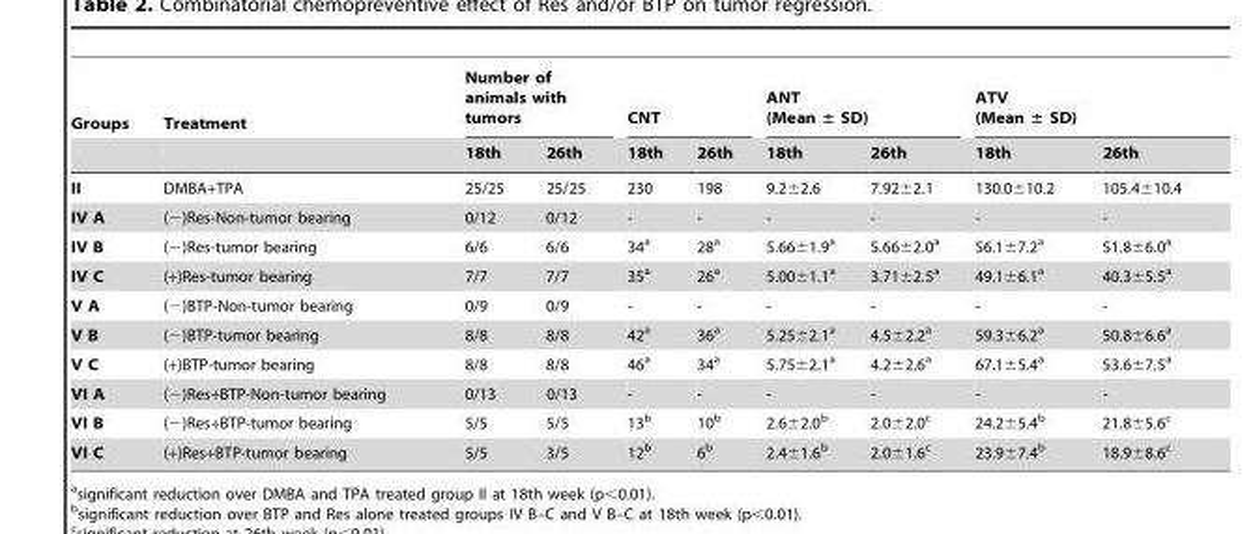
<table><thead><tr><td rowspan="2">Groups</td><td rowspan="2">Treatment</td><td colspan="2">Number of animals with tumors</td><td colspan="2">CNT</td><td colspan="2">ANT (Mean ± SD)</td><td colspan="2">ATV (Mean ± SD)</td></tr><tr><td>18th</td><td>26th</td><td>18th</td><td>26th</td><td>18th</td><td>26th</td><td>18th</td><td>26th</td></tr></thead><tbody><tr><td>II</td><td>DMBA+TPA</td><td>25/25</td><td>25/25</td><td>230</td><td>198</td><td>9.2±2.6</td><td>7.92±2.1</td><td>130.0±10.2</td><td>105.4±10.4</td></tr><tr><td>IV A</td><td>(−)Res-Non-tumor bearing</td><td>0/12</td><td>0/12</td><td>-</td><td>-</td><td>-</td><td>-</td><td>-</td><td>-</td></tr><tr><td>IV B</td><td>(−)Res-tumor bearing</td><td>6/6</td><td>6/6</td><td>34a</td><td>28a</td><td>5.66±1.9a</td><td>5.66±2.0a</td><td>56.1±7.2a</td><td>51.8±6.0a</td></tr><tr><td>IV C</td><td>(+)Res-tumor bearing</td><td>7/7</td><td>7/7</td><td>35a</td><td>26a</td><td>5.00±1.1a</td><td>3.71±2.5a</td><td>49.1±6.1a</td><td>40.3±5.5a</td></tr><tr><td>V A</td><td>(−)BTP-Non-tumor bearing</td><td>0/9</td><td>0/9</td><td>-</td><td>-</td><td>-</td><td>-</td><td>-</td><td>-</td></tr><tr><td>V B</td><td>(−)BTP-tumor bearing</td><td>8/8</td><td>8/8</td><td>42a</td><td>36a</td><td>5.25±2.1a</td><td>4.5±2.2a</td><td>59.3±6.2a</td><td>50.8±6.6a</td></tr><tr><td>V C</td><td>(+)BTP-tumor bearing</td><td>8/8</td><td>8/8</td><td>46a</td><td>34a</td><td>5.75±2.1a</td><td>4.2±2.6a</td><td>67.1±5.4a</td><td>53.6±7.5a</td></tr><tr><td>VI A</td><td>(−)Res+BTP-Non-tumor bearing</td><td>0/13</td><td>0/13</td><td>-</td><td>-</td><td>-</td><td>-</td><td>-</td><td>-</td></tr><tr><td>VI B</td><td>(−)Res+BTP-tumor bearing</td><td>5/5</td><td>5/5</td><td>13b</td><td>10b</td><td>2.6±2.0b</td><td>2.0±2.0c</td><td>24.2±5.4b</td><td>21.8±5.6c</td></tr><tr><td>VI C</td><td>(+)Res+BTP-tumor bearing</td><td>5/5</td><td>3/5</td><td>12b</td><td>6b</td><td>2.4±1.6b</td><td>2.0±1.6c</td><td>23.9±7.4b</td><td>18.9±8.6c</td></tr></tbody></table>